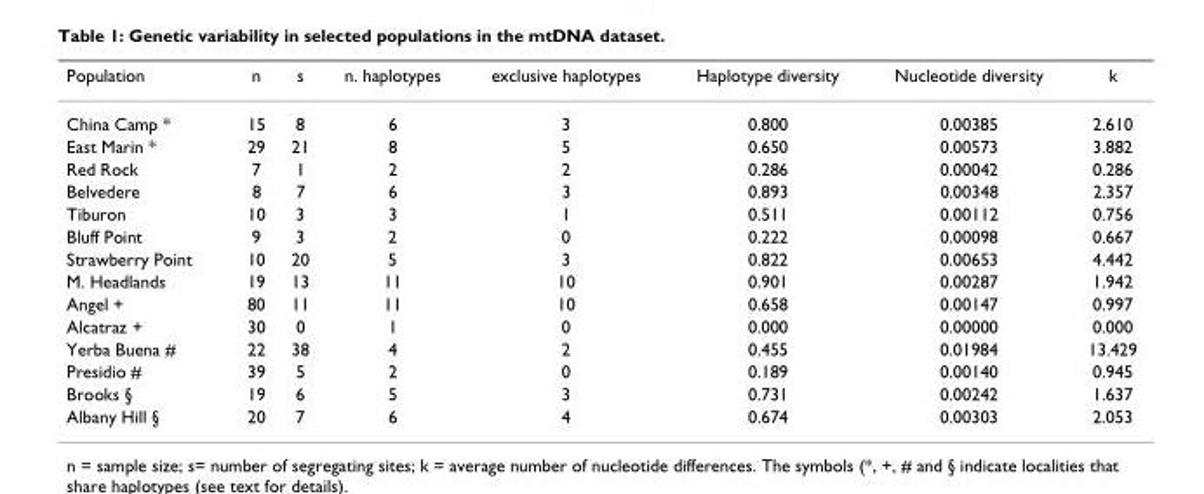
<table><thead><tr><td>Population</td><td>n</td><td>s</td><td>n. haplotypes</td><td>exclusive haplotypes</td><td>Haplotype diversity</td><td>Nucleotide diversity</td><td>k</td></tr></thead><tbody><tr><td>China Camp *</td><td>15</td><td>8</td><td>6</td><td>3</td><td>0.800</td><td>0.00385</td><td>2.610</td></tr><tr><td>East Marin *</td><td>29</td><td>21</td><td>8</td><td>5</td><td>0.650</td><td>0.00573</td><td>3.882</td></tr><tr><td>Red Rock</td><td>7</td><td>1</td><td>2</td><td>2</td><td>0.286</td><td>0.00042</td><td>0.286</td></tr><tr><td>Belvedere</td><td>8</td><td>7</td><td>6</td><td>3</td><td>0.893</td><td>0.00348</td><td>2.357</td></tr><tr><td>Tiburon</td><td>10</td><td>3</td><td>3</td><td>1</td><td>0.511</td><td>0.00112</td><td>0.756</td></tr><tr><td>Bluff Point</td><td>9</td><td>3</td><td>2</td><td>0</td><td>0.222</td><td>0.00098</td><td>0.667</td></tr><tr><td>Strawberry Point</td><td>10</td><td>20</td><td>5</td><td>3</td><td>0.822</td><td>0.00653</td><td>4.442</td></tr><tr><td>M. Headlands</td><td>19</td><td>13</td><td>11</td><td>10</td><td>0.901</td><td>0.00287</td><td>1.942</td></tr><tr><td>Angel +</td><td>80</td><td>11</td><td>11</td><td>10</td><td>0.658</td><td>0.00147</td><td>0.997</td></tr><tr><td>Alcatraz +</td><td>30</td><td>0</td><td>1</td><td>0</td><td>0.000</td><td>0.00000</td><td>0.000</td></tr><tr><td>Yerba Buena #</td><td>22</td><td>38</td><td>4</td><td>2</td><td>0.455</td><td>0.01984</td><td>13.429</td></tr><tr><td>Presidio #</td><td>39</td><td>5</td><td>2</td><td>0</td><td>0.189</td><td>0.00140</td><td>0.945</td></tr><tr><td>Brooks §</td><td>19</td><td>6</td><td>5</td><td>3</td><td>0.731</td><td>0.00242</td><td>1.637</td></tr><tr><td>Albany Hill §</td><td>20</td><td>7</td><td>6</td><td>4</td><td>0.674</td><td>0.00303</td><td>2.053</td></tr></tbody></table>